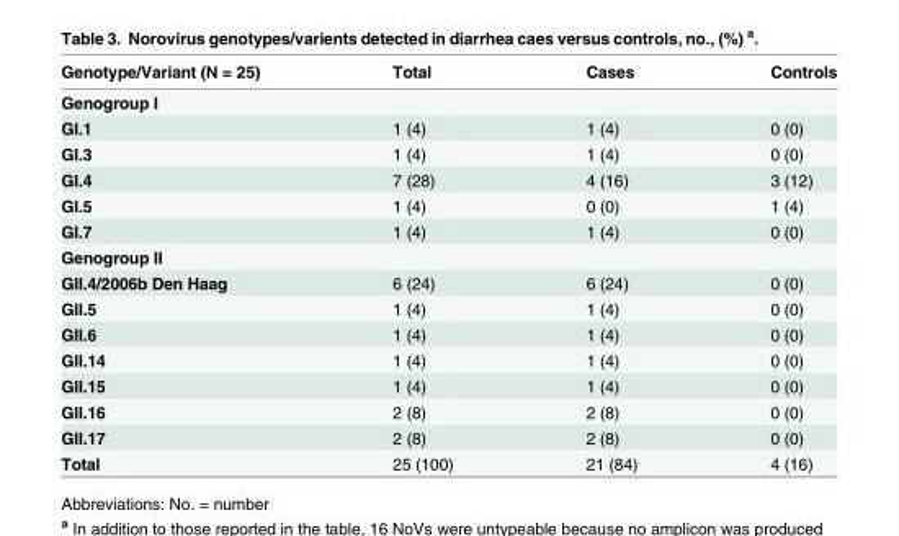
<table><thead><tr><td>Genotype/Variant (N = 25)</td><td>Total</td><td>Cases</td><td>Controls</td></tr></thead><tbody><tr><td colspan="4">Genogroup I</td></tr><tr><td>GI.1</td><td>1 (4)</td><td>1 (4)</td><td>0 (0)</td></tr><tr><td>GI.3</td><td>1 (4)</td><td>1 (4)</td><td>0 (0)</td></tr><tr><td>GI.4</td><td>7 (28)</td><td>4 (16)</td><td>3 (12)</td></tr><tr><td>GI.5</td><td>1 (4)</td><td>0 (0)</td><td>1 (4)</td></tr><tr><td>GI.7</td><td>1 (4)</td><td>1 (4)</td><td>0 (0)</td></tr><tr><td colspan="4">Genogroup II</td></tr><tr><td>GII.4/2006b Den Haag</td><td>6 (24)</td><td>6 (24)</td><td>0 (0)</td></tr><tr><td>GII.5</td><td>1 (4)</td><td>1 (4)</td><td>0 (0)</td></tr><tr><td>GII.6</td><td>1 (4)</td><td>1 (4)</td><td>0 (0)</td></tr><tr><td>GII.14</td><td>1 (4)</td><td>1 (4)</td><td>0 (0)</td></tr><tr><td>GII.15</td><td>1 (4)</td><td>1 (4)</td><td>0 (0)</td></tr><tr><td>GII.16</td><td>2 (8)</td><td>2 (8)</td><td>0 (0)</td></tr><tr><td>GII.17</td><td>2 (8)</td><td>2 (8)</td><td>0 (0)</td></tr><tr><td>Total</td><td>25 (100)</td><td>21 (84)</td><td>4 (16)</td></tr></tbody></table>